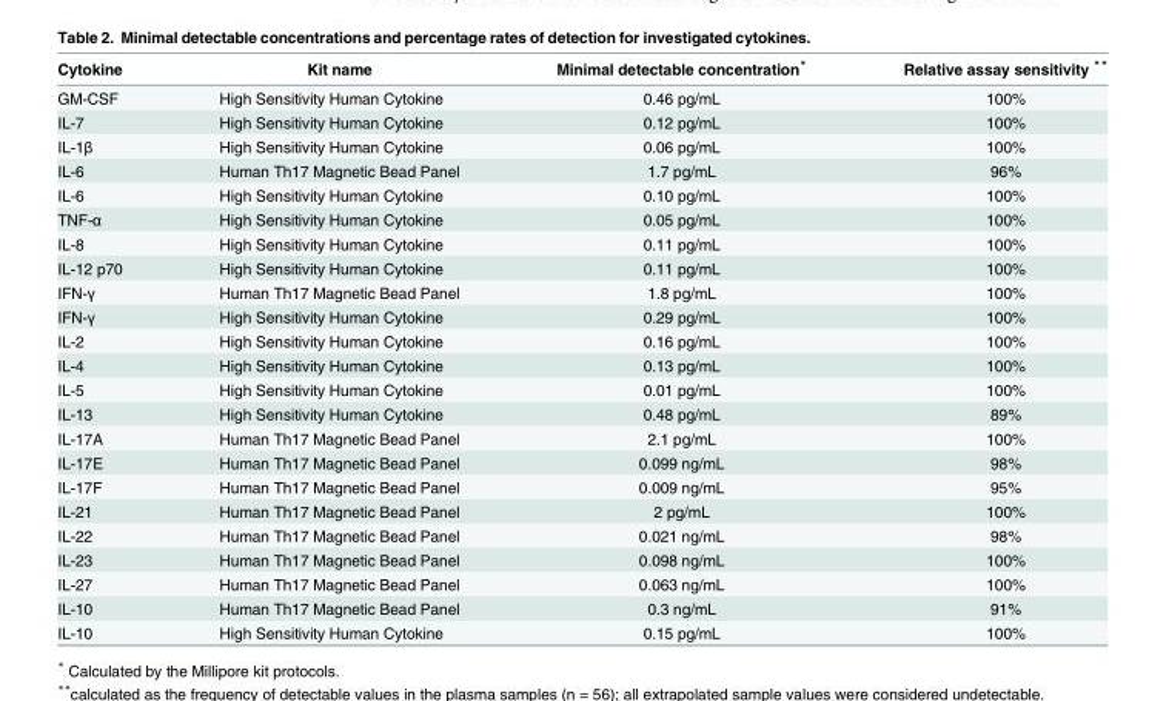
<table><thead><tr><td>Cytokine</td><td>Kit name</td><td>Minimal detectable concentration*</td><td>Relative assay sensitivity **</td></tr></thead><tbody><tr><td>GM-CSF</td><td>High Sensitivity Human Cytokine</td><td>0.46 pg/mL</td><td>100%</td></tr><tr><td>IL-7</td><td>High Sensitivity Human Cytokine</td><td>0.12 pg/mL</td><td>100%</td></tr><tr><td>IL-1β</td><td>High Sensitivity Human Cytokine</td><td>0.06 pg/mL</td><td>100%</td></tr><tr><td>IL-6</td><td>Human Th17 Magnetic Bead Panel</td><td>1.7 pg/mL</td><td>96%</td></tr><tr><td>IL-6</td><td>High Sensitivity Human Cytokine</td><td>0.10 pg/mL</td><td>100%</td></tr><tr><td>TNF-α</td><td>High Sensitivity Human Cytokine</td><td>0.05 pg/mL</td><td>100%</td></tr><tr><td>IL-8</td><td>High Sensitivity Human Cytokine</td><td>0.11 pg/mL</td><td>100%</td></tr><tr><td>IL-12 p70</td><td>High Sensitivity Human Cytokine</td><td>0.11 pg/mL</td><td>100%</td></tr><tr><td>IFN-γ</td><td>Human Th17 Magnetic Bead Panel</td><td>1.8 pg/mL</td><td>100%</td></tr><tr><td>IFN-γ</td><td>High Sensitivity Human Cytokine</td><td>0.29 pg/mL</td><td>100%</td></tr><tr><td>IL-2</td><td>High Sensitivity Human Cytokine</td><td>0.16 pg/mL</td><td>100%</td></tr><tr><td>IL-4</td><td>High Sensitivity Human Cytokine</td><td>0.13 pg/mL</td><td>100%</td></tr><tr><td>IL-5</td><td>High Sensitivity Human Cytokine</td><td>0.01 pg/mL</td><td>100%</td></tr><tr><td>IL-13</td><td>High Sensitivity Human Cytokine</td><td>0.48 pg/mL</td><td>89%</td></tr><tr><td>IL-17A</td><td>Human Th17 Magnetic Bead Panel</td><td>2.1 pg/mL</td><td>100%</td></tr><tr><td>IL-17E</td><td>Human Th17 Magnetic Bead Panel</td><td>0.099 ng/mL</td><td>98%</td></tr><tr><td>IL-17F</td><td>Human Th17 Magnetic Bead Panel</td><td>0.009 ng/mL</td><td>95%</td></tr><tr><td>IL-21</td><td>Human Th17 Magnetic Bead Panel</td><td>2 pg/mL</td><td>100%</td></tr><tr><td>IL-22</td><td>Human Th17 Magnetic Bead Panel</td><td>0.021 ng/mL</td><td>98%</td></tr><tr><td>IL-23</td><td>Human Th17 Magnetic Bead Panel</td><td>0.098 ng/mL</td><td>100%</td></tr><tr><td>IL-27</td><td>Human Th17 Magnetic Bead Panel</td><td>0.063 ng/mL</td><td>100%</td></tr><tr><td>IL-10</td><td>Human Th17 Magnetic Bead Panel</td><td>0.3 ng/mL</td><td>91%</td></tr><tr><td>IL-10</td><td>High Sensitivity Human Cytokine</td><td>0.15 pg/mL</td><td>100%</td></tr></tbody></table>